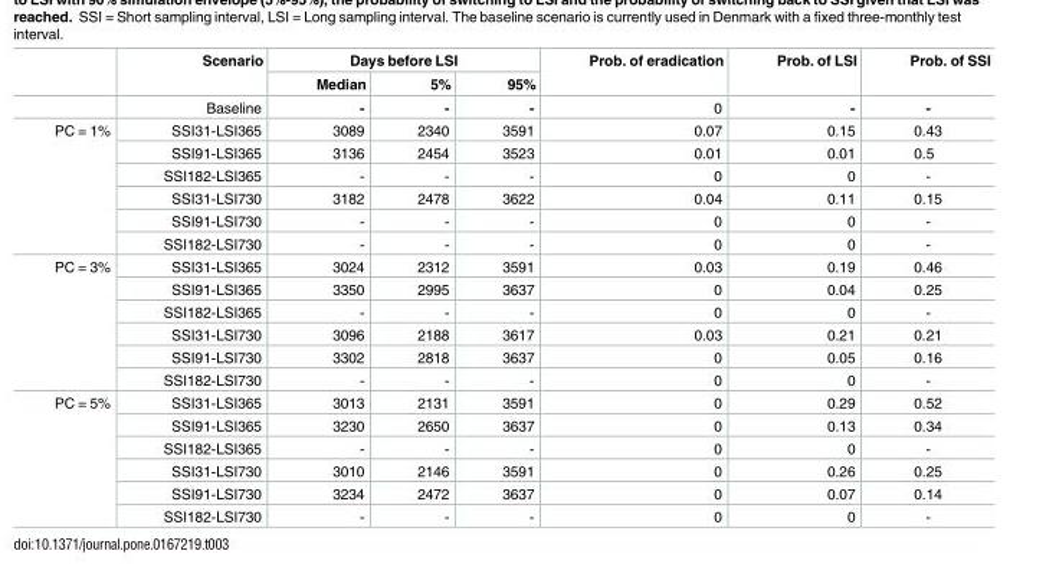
<table><thead><tr><td rowspan="2"></td><td rowspan="2">Scenario</td><td colspan="3">Days before LSI</td><td rowspan="2">Prob. of eradication</td><td rowspan="2">Prob. of LSI</td><td rowspan="2">Prob. of SSI</td></tr><tr><td>Median</td><td>5%</td><td>95%</td></tr></thead><tbody><tr><td></td><td>Baseline</td><td>-</td><td>-</td><td>-</td><td>0</td><td>-</td><td>-</td></tr><tr><td rowspan="6">PC = 1%</td><td>SSI31-LSI365</td><td>3089</td><td>2340</td><td>3591</td><td>0.07</td><td>0.15</td><td>0.43</td></tr><tr><td>SSI91-LSI365</td><td>3136</td><td>2454</td><td>3523</td><td>0.01</td><td>0.01</td><td>0.5</td></tr><tr><td>SSI182-LSI365</td><td>-</td><td>-</td><td>-</td><td>0</td><td>0</td><td>-</td></tr><tr><td>SSI31-LSI730</td><td>3182</td><td>2478</td><td>3622</td><td>0.04</td><td>0.11</td><td>0.15</td></tr><tr><td>SSI91-LSI730</td><td>-</td><td>-</td><td>-</td><td>0</td><td>0</td><td>-</td></tr><tr><td>SSI182-LSI730</td><td>-</td><td>-</td><td>-</td><td>0</td><td>0</td><td>-</td></tr><tr><td rowspan="6">PC = 3%</td><td>SSI31-LSI365</td><td>3024</td><td>2312</td><td>3591</td><td>0.03</td><td>0.19</td><td>0.46</td></tr><tr><td>SSI91-LSI365</td><td>3350</td><td>2995</td><td>3637</td><td>0</td><td>0.04</td><td>0.25</td></tr><tr><td>SSI182-LSI365</td><td>-</td><td>-</td><td>-</td><td>0</td><td>0</td><td>-</td></tr><tr><td>SSI31-LSI730</td><td>3096</td><td>2188</td><td>3617</td><td>0.03</td><td>0.21</td><td>0.21</td></tr><tr><td>SSI91-LSI730</td><td>3302</td><td>2818</td><td>3637</td><td>0</td><td>0.05</td><td>0.16</td></tr><tr><td>SSI182-LSI730</td><td>-</td><td>-</td><td>-</td><td>0</td><td>0</td><td>-</td></tr><tr><td rowspan="6">PC = 5%</td><td>SSI31-LSI365</td><td>3013</td><td>2131</td><td>3591</td><td>0</td><td>0.29</td><td>0.52</td></tr><tr><td>SSI91-LSI365</td><td>3230</td><td>2650</td><td>3637</td><td>0</td><td>0.13</td><td>0.34</td></tr><tr><td>SSI182-LSI365</td><td>-</td><td>-</td><td>-</td><td>0</td><td>0</td><td>-</td></tr><tr><td>SSI31-LSI730</td><td>3010</td><td>2146</td><td>3591</td><td>0</td><td>0.26</td><td>0.25</td></tr><tr><td>SSI91-LSI730</td><td>3234</td><td>2472</td><td>3637</td><td>0</td><td>0.07</td><td>0.14</td></tr><tr><td>SSI182-LSI730</td><td>-</td><td>-</td><td>-</td><td>0</td><td>0</td><td>-</td></tr></tbody></table>